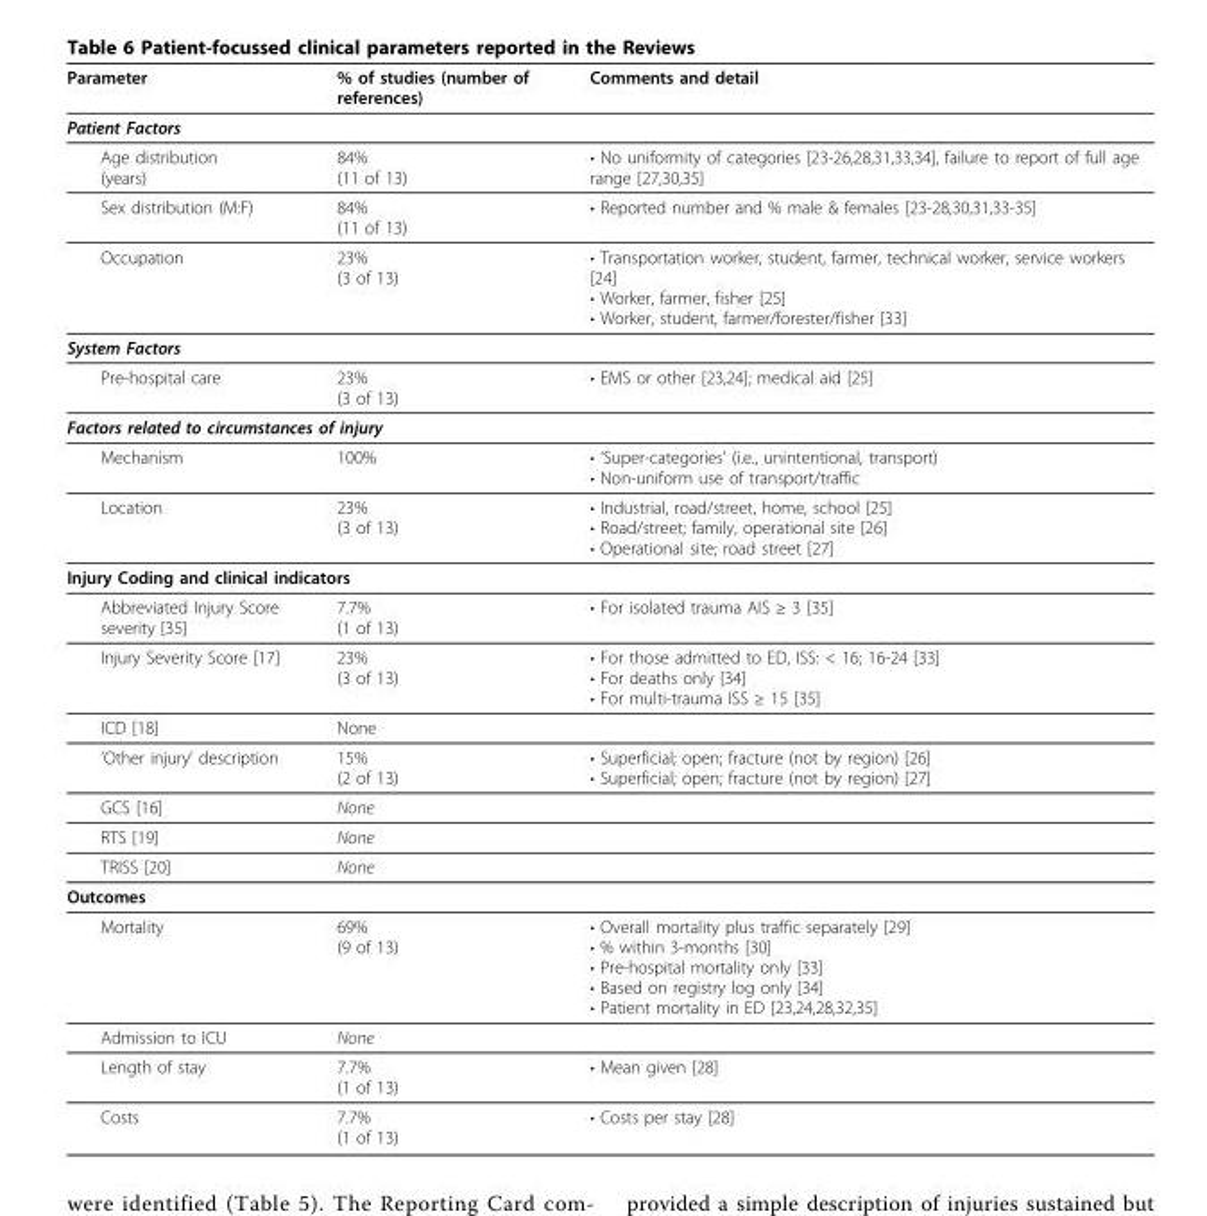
<table><thead><tr><td>Parameter</td><td>% of studies (number of references)</td><td>Comments and detail</td></tr></thead><tbody><tr><td colspan="3">Patient Factors</td></tr><tr><td>Age distribution (years)</td><td>84% (11 of 13)</td><td>• No uniformity of categories [23-26,28,31,33,34], failure to report of full age range [27,30,35]</td></tr><tr><td>Sex distribution (M:F)</td><td>84% (11 of 13)</td><td>• Reported number and % male &amp; females [23-28,30,31,33-35]</td></tr><tr><td>Occupation</td><td>23% (3 of 13)</td><td>• Transportation worker, student, farmer, technical worker, service workers [24] • Worker, farmer, fisher [25] • Worker, student, farmer/forester/fisher [33]</td></tr><tr><td colspan="3">System Factors</td></tr><tr><td>Pre-hospital care</td><td>23% (3 of 13)</td><td>• EMS or other [23,24]; medical aid [25]</td></tr><tr><td colspan="3">Factors related to circumstances of injury</td></tr><tr><td>Mechanism</td><td>100%</td><td>• ‘Super-categories’ (i.e., unintentional, transport) • Non-uniform use of transport/traffic</td></tr><tr><td>Location</td><td>23% (3 of 13)</td><td>• Industrial, road/street, home, school [25] • Road/street; family, operational site [26] • Operational site; road street [27]</td></tr><tr><td colspan="3">Injury Coding and clinical indicators</td></tr><tr><td>Abbreviated Injury Score severity [35]</td><td>7.7% (1 of 13)</td><td>• For isolated trauma AIS ≥ 3 [35]</td></tr><tr><td>Injury Severity Score [17]</td><td>23% (3 of 13)</td><td>• For those admitted to ED, ISS: &lt; 16; 16-24 [33] • For deaths only [34] • For multi-trauma ISS ≥ 15 [35]</td></tr><tr><td>ICD [18]</td><td>None</td><td></td></tr><tr><td>’Other injury’ description</td><td>15% (2 of 13)</td><td>• Superficial; open; fracture (not by region) [26] • Superficial; open; fracture (not by region) [27]</td></tr><tr><td>GCS [16]</td><td>None</td><td></td></tr><tr><td>RTS [19]</td><td>None</td><td></td></tr><tr><td>TRISS [20]</td><td>None</td><td></td></tr><tr><td colspan="3">Outcomes</td></tr><tr><td>Mortality</td><td>69% (9 of 13)</td><td>• Overall mortality plus traffic separately [29] • % within 3-months [30] • Pre-hospital mortality only [33] • Based on registry log only [34] • Patient mortality in ED [23,24,28,32,35]</td></tr><tr><td>Admission to ICU</td><td>None</td><td></td></tr><tr><td>Length of stay</td><td>7.7% (1 of 13)</td><td>• Mean given [28]</td></tr><tr><td>Costs</td><td>7.7% (1 of 13)</td><td>• Costs per stay [28]</td></tr></tbody></table>